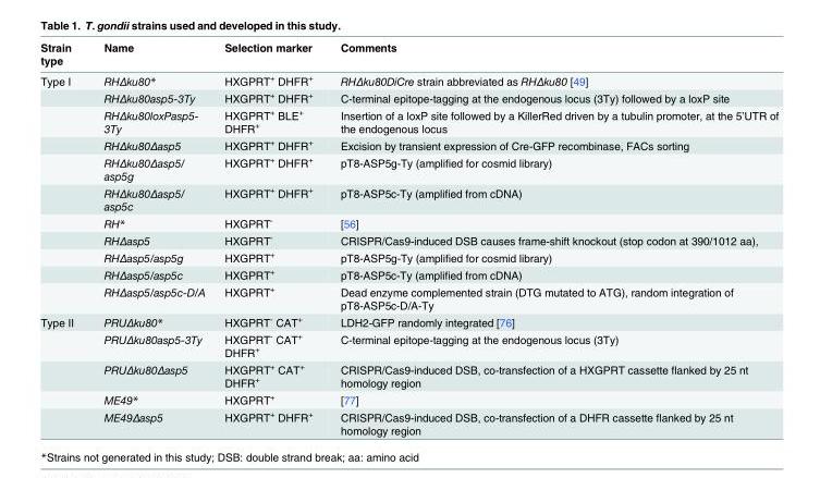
<table><thead><tr><td>Strain type</td><td>Name</td><td>Selection marker</td><td>Comments</td></tr></thead><tbody><tr><td rowspan="11">Type I</td><td>RHΔku80*</td><td>HXGPRT<sup>+</sup> DHFR<sup>+</sup></td><td>RHΔku80DiCre strain abbreviated as RHΔku80 [49]</td></tr><tr><td>RHΔku80asp5-3Ty</td><td>HXGPRT<sup>+</sup> DHFR<sup>+</sup></td><td>C-terminal epitope-tagging at the endogenous locus (3Ty) followed by a loxP site</td></tr><tr><td>RHΔku80loxPasp5- 3Ty</td><td>HXGPRT<sup>+</sup> BLE<sup>+</sup> DHFR<sup>+</sup></td><td>Insertion of a loxP site followed by a KillerRed driven by a tubulin promoter, at the 5’UTR of the endogenous locus</td></tr><tr><td>RHΔku80Δasp5</td><td>HXGPRT<sup>+</sup> DHFR<sup>+</sup></td><td>Excision by transient expression of Cre-GFP recombinase, FACs sorting</td></tr><tr><td>RHΔku80Δasp5/ asp5g</td><td>HXGPRT<sup>+</sup> DHFR<sup>+</sup></td><td>pT8-ASP5g-Ty (amplified for cosmid library)</td></tr><tr><td>RHΔku80Δasp5/ asp5c</td><td>HXGPRT<sup>+</sup> DHFR<sup>+</sup></td><td>pT8-ASP5c-Ty (amplified from cDNA)</td></tr><tr><td>RH*</td><td>HXGPRT<sup>-</sup></td><td>[56]</td></tr><tr><td>RHΔasp5</td><td>HXGPRT<sup>-</sup></td><td>CRISPR/Cas9-induced DSB causes frame-shift knockout (stop codon at 390/1012 aa),</td></tr><tr><td>RHΔasp5/asp5g</td><td>HXGPRT<sup>+</sup></td><td>pT8-ASP5g-Ty (amplified for cosmid library)</td></tr><tr><td>RHΔasp5/asp5c</td><td>HXGPRT<sup>+</sup></td><td>pT8-ASP5c-Ty (amplified from cDNA)</td></tr><tr><td>RHΔasp5/asp5c-D/A</td><td>HXGPRT<sup>+</sup></td><td>Dead enzyme complemented strain (DTG mutated to ATG), random integration of pT8-ASP5c-D/A-Ty</td></tr><tr><td rowspan="5">Type II</td><td>PRUΔku80*</td><td>HXGPRT<sup>-</sup> CAT<sup>+</sup></td><td>LDH2-GFP randomly integrated [76]</td></tr><tr><td>PRUΔku80asp5-3Ty</td><td>HXGPRT<sup>-</sup> CAT<sup>+</sup> DHFR<sup>+</sup></td><td>C-terminal epitope-tagging at the endogenous locus (3Ty)</td></tr><tr><td>PRUΔku80Δasp5</td><td>HXGPRT<sup>+</sup> CAT<sup>+</sup> DHFR<sup>+</sup></td><td>CRISPR/Cas9-induced DSB, co-transfection of a HXGPRT cassette flanked by 25 nt homology region</td></tr><tr><td>ME49*</td><td>HXGPRT<sup>+</sup></td><td>[77]</td></tr><tr><td>ME49Δasp5</td><td>HXGPRT<sup>+</sup> DHFR<sup>+</sup></td><td>CRISPR/Cas9-induced DSB, co-transfection of a DHFR cassette flanked by 25 nt homology region</td></tr></tbody></table>